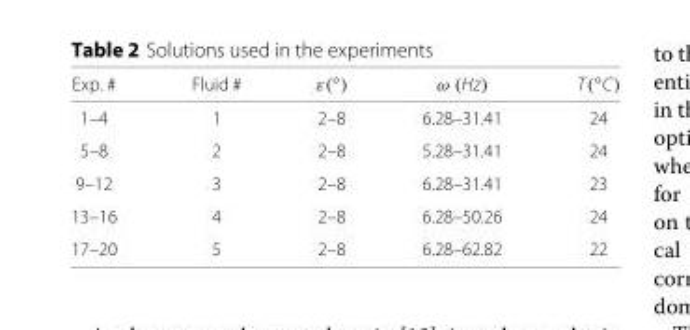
<table><thead><tr><td>Exp. #</td><td>Fluid #</td><td>ε(◦)</td><td>ω (Hz)</td><td>T(◦C)</td></tr></thead><tbody><tr><td>1–4</td><td>1</td><td>2–8</td><td>6.28–31.41</td><td>24</td></tr><tr><td>5–8</td><td>2</td><td>2–8</td><td>5.28–31.41</td><td>24</td></tr><tr><td>9–12</td><td>3</td><td>2–8</td><td>6.28–31.41</td><td>23</td></tr><tr><td>13–16</td><td>4</td><td>2–8</td><td>6.28–50.26</td><td>24</td></tr><tr><td>17–20</td><td>5</td><td>2–8</td><td>6.28–62.82</td><td>22</td></tr></tbody></table>